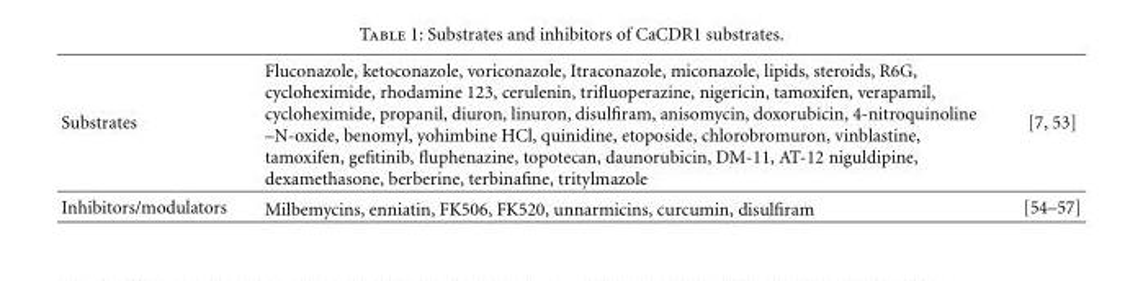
<table><tbody><tr><td>Substrates</td><td>Fluconazole, ketoconazole, voriconazole, Itraconazole, miconazole, lipids, steroids, R6G, cycloheximide, rhodamine 123, cerulenin, trifluoperazine, nigericin, tamoxifen, verapamil, cycloheximide, propanil, diuron, linuron, disulfiram, anisomycin, doxorubicin, 4-nitroquinoline –N-oxide, benomyl, yohimbine HCl, quinidine, etoposide, chlorobromuron, vinblastine, tamoxifen, gefitinib, fluphenazine, topotecan, daunorubicin, DM-11, AT-12 niguldipine, dexamethasone, berberine, terbinafine, tritylmazole</td><td>[7, 53]</td></tr><tr><td>Inhibitors/modulators</td><td>Milbemycins, enniatin, FK506, FK520, unnarmicins, curcumin, disulfiram</td><td>[54–57]</td></tr></tbody></table>